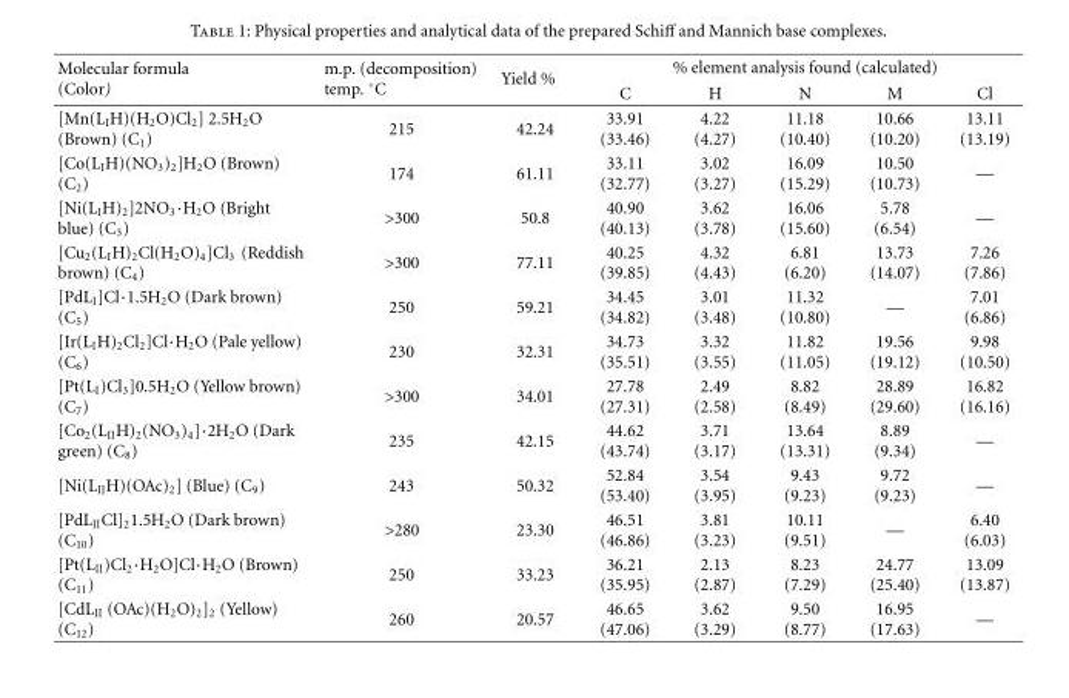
<table><thead><tr><td rowspan="2">Molecular formula (Color)</td><td rowspan="2">m.p. (decomposition) temp. ◦C</td><td rowspan="2">Yield %</td><td colspan="5">% element analysis found (calculated)</td></tr><tr><td>C</td><td>H</td><td>N</td><td>M</td><td>Cl</td></tr></thead><tbody><tr><td>[Mn(L<sub>I</sub>H)(H<sub>2</sub>O)Cl<sub>2</sub>] 2.5H<sub>2</sub>O (Brown) (C<sub>1</sub>)</td><td>215</td><td>42.24</td><td>33.91 (33.46)</td><td>4.22 (4.27)</td><td>11.18 (10.40)</td><td>10.66 (10.20)</td><td>13.11 (13.19)</td></tr><tr><td>[Co(L<sub>I</sub>H)(NO<sub>3</sub>)<sub>2</sub>]H<sub>2</sub>O (Brown) (C<sub>2</sub>)</td><td>174</td><td>61.11</td><td>33.11 (32.77)</td><td>3.02 (3.27)</td><td>16.09 (15.29)</td><td>10.50 (10.73)</td><td>—</td></tr><tr><td>[Ni(L<sub>I</sub>H)<sub>2</sub>]2NO<sub>3</sub>·H<sub>2</sub>O (Bright blue) (C<sub>3</sub>)</td><td>&gt;300</td><td>50.8</td><td>40.90 (40.13)</td><td>3.62 (3.78)</td><td>16.06 (15.60)</td><td>5.78 (6.54)</td><td>—</td></tr><tr><td>[Cu<sub>2</sub>(L<sub>I</sub>H)<sub>2</sub>Cl(H<sub>2</sub>O)<sub>4</sub>]Cl<sub>3</sub> (Reddish brown) (C<sub>4</sub>)</td><td>&gt;300</td><td>77.11</td><td>40.25 (39.85)</td><td>4.32 (4.43)</td><td>6.81 (6.20)</td><td>13.73 (14.07)</td><td>7.26 (7.86)</td></tr><tr><td>[PdL<sub>I</sub>]Cl·1.5H<sub>2</sub>O (Dark brown) (C<sub>5</sub>)</td><td>250</td><td>59.21</td><td>34.45 (34.82)</td><td>3.01 (3.48)</td><td>11.32 (10.80)</td><td>—</td><td>7.01 (6.86)</td></tr><tr><td>[Ir(L<sub>I</sub>H)<sub>2</sub>Cl<sub>2</sub>]Cl·H<sub>2</sub>O (Pale yellow) (C<sub>6</sub>)</td><td>230</td><td>32.31</td><td>34.73 (35.51)</td><td>3.32 (3.55)</td><td>11.82 (11.05)</td><td>19.56 (19.12)</td><td>9.98 (10.50)</td></tr><tr><td>[Pt(L<sub>I</sub>)Cl<sub>3</sub>]0.5H<sub>2</sub>O (Yellow brown) (C<sub>7</sub>)</td><td>&gt;300</td><td>34.01</td><td>27.78 (27.31)</td><td>2.49 (2.58)</td><td>8.82 (8.49)</td><td>28.89 (29.60)</td><td>16.82 (16.16)</td></tr><tr><td>[Co<sub>2</sub>(L<sub>II</sub>H)<sub>2</sub>(NO<sub>3</sub>)<sub>4</sub>]·2H<sub>2</sub>O (Dark green) (C<sub>8</sub>)</td><td>235</td><td>42.15</td><td>44.62 (43.74)</td><td>3.71 (3.17)</td><td>13.64 (13.31)</td><td>8.89 (9.34)</td><td>—</td></tr><tr><td>[Ni(L<sub>II</sub>H)(OAc)<sub>2</sub>] (Blue) (C<sub>9</sub>)</td><td>243</td><td>50.32</td><td>52.84 (53.40)</td><td>3.54 (3.95)</td><td>9.43 (9.23)</td><td>9.72 (9.23)</td><td>—</td></tr><tr><td>[PdL<sub>II</sub>Cl]<sub>2</sub>1.5H<sub>2</sub>O (Dark brown) (C<sub>10</sub>)</td><td>&gt;280</td><td>23.30</td><td>46.51 (46.86)</td><td>3.81 (3.23)</td><td>10.11 (9.51)</td><td>—</td><td>6.40 (6.03)</td></tr><tr><td>[Pt(L<sub>II</sub>)Cl<sub>2</sub>·H<sub>2</sub>O]Cl·H<sub>2</sub>O (Brown) (C<sub>11</sub>)</td><td>250</td><td>33.23</td><td>36.21 (35.95)</td><td>2.13 (2.87)</td><td>8.23 (7.29)</td><td>24.77 (25.40)</td><td>13.09 (13.87)</td></tr><tr><td>[CdL<sub>II</sub> (OAc)(H<sub>2</sub>O)<sub>2</sub>]<sub>2</sub> (Yellow) (C<sub>12</sub>)</td><td>260</td><td>20.57</td><td>46.65 (47.06)</td><td>3.62 (3.29)</td><td>9.50 (8.77)</td><td>16.95 (17.63)</td><td>—</td></tr></tbody></table>